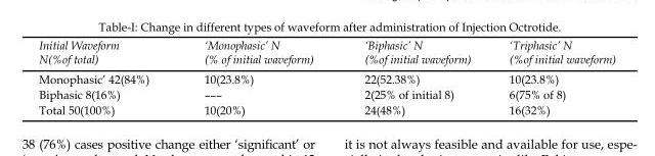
<table><thead><tr><td>Initial Waveform N(%of total)</td><td>‘Monophasic’ N (% of initial waveform)</td><td>‘Biphasic’ N (%of initial waveform)</td><td>‘Triphasic’ N (%of initial waveform)</td></tr></thead><tbody><tr><td>Monophasic’ 42(84%)</td><td>10(23.8%)</td><td>22(52.38%)</td><td>10(23.8%)</td></tr><tr><td>Biphasic 8(16%)</td><td>–––</td><td>2(25% of initial 8)</td><td>6(75% of 8)</td></tr><tr><td>Total 50(100%)</td><td>10(20%)</td><td>24(48%)</td><td>16(32%)</td></tr></tbody></table>